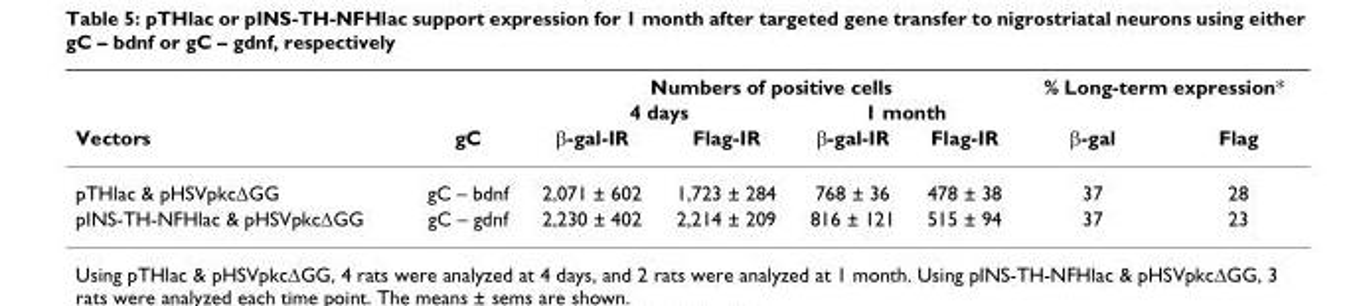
<table><thead><tr><td rowspan="3">Vectors</td><td rowspan="3">gC</td><td colspan="4">Numbers of positive cells</td><td colspan="2">% Long-term expression*</td></tr><tr><td colspan="2">4 days</td><td colspan="2">1 month</td><td rowspan="2">β-gal</td><td rowspan="2">Flag</td></tr><tr><td>β-gal-IR</td><td>Flag-IR</td><td>β-gal-IR</td><td>Flag-IR</td></tr></thead><tbody><tr><td>pTHlac &amp; pHSVpkcΔGG</td><td>gC – bdnf</td><td>2,071 ± 602</td><td>1,723 ± 284</td><td>768 ± 36</td><td>478 ± 38</td><td>37</td><td>28</td></tr><tr><td>pINS-TH-NFHlac &amp; pHSVpkcΔGG</td><td>gC – gdnf</td><td>2,230 ± 402</td><td>2,214 ± 209</td><td>816 ± 121</td><td>515 ± 94</td><td>37</td><td>23</td></tr></tbody></table>